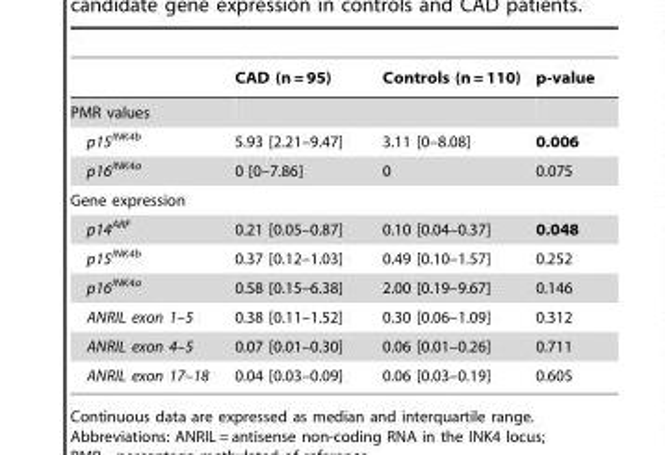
<table><thead><tr><td></td><td>CAD (n = 95)</td><td>Controls (n = 110)</td><td>p-value</td></tr></thead><tbody><tr><td colspan="4">PMR values</td></tr><tr><td>p15<sup>INK4b</sup></td><td>5.93 [2.21–9.47]</td><td>3.11 [0–8.08]</td><td>0.006</td></tr><tr><td>p16<sup>INK4a</sup></td><td>0 [0–7.86]</td><td>0</td><td>0.075</td></tr><tr><td colspan="4">Gene expression</td></tr><tr><td>p14<sup>ARF</sup></td><td>0.21 [0.05–0.87]</td><td>0.10 [0.04–0.37]</td><td>0.048</td></tr><tr><td>p15<sup>INK4b</sup></td><td>0.37 [0.12–1.03]</td><td>0.49 [0.10–1.57]</td><td>0.252</td></tr><tr><td>p16<sup>INK4a</sup></td><td>0.58 [0.15–6.38]</td><td>2.00 [0.19–9.67]</td><td>0.146</td></tr><tr><td>ANRIL exon 1–5</td><td>0.38 [0.11–1.52]</td><td>0.30 [0.06–1.09]</td><td>0.312</td></tr><tr><td>ANRIL exon 4–5</td><td>0.07 [0.01–0.30]</td><td>0.06 [0.01–0.26]</td><td>0.711</td></tr><tr><td>ANRIL exon 17–18</td><td>0.04 [0.03–0.09]</td><td>0.06 [0.03–0.19]</td><td>0.605</td></tr></tbody></table>